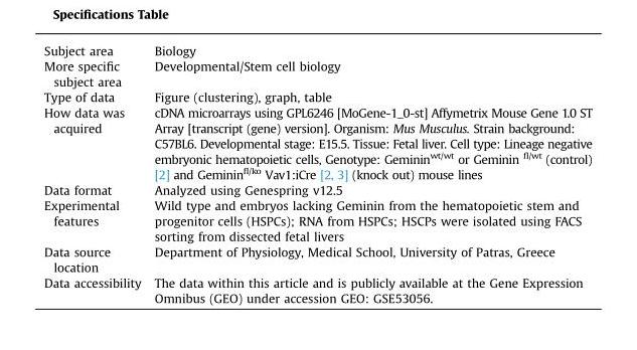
<table><tbody><tr><td>Subject area</td><td>Biology</td></tr><tr><td>More specific subject area</td><td>Developmental/Stem cell biology</td></tr><tr><td>Type of data</td><td>Figure (clustering), graph, table</td></tr><tr><td>How data was acquired</td><td>cDNA microarrays using GPL6246 [MoGene-1_0-st] Affymetrix Mouse Gene 1.0 ST Array [transcript (gene) version]. Organism: Mus Musculus. Strain background: C57BL6. Developmental stage: E15.5. Tissue: Fetal liver. Cell type: Lineage negative embryonic hematopoietic cells, Genotype: Geminin<sup>wt/wt</sup> or Geminin <sup>fl/wt</sup> (control) [2] and Geminin<sup>fl/ko</sup> Vav1:iCre [2, 3] (knock out) mouse lines</td></tr><tr><td>Data format</td><td>Analyzed using Genespring v12.5</td></tr><tr><td>Experimental features</td><td>Wild type and embryos lacking Geminin from the hematopoietic stem and progenitor cells (HSPCs); RNA from HSPCs; HSCPs were isolated using FACS sorting from dissected fetal livers</td></tr><tr><td>Data source location</td><td>Department of Physiology, Medical School, University of Patras, Greece</td></tr><tr><td>Data accessibility</td><td>The data within this article and is publicly available at the Gene Expression Omnibus (GEO) under accession GEO: GSE53056.</td></tr></tbody></table>